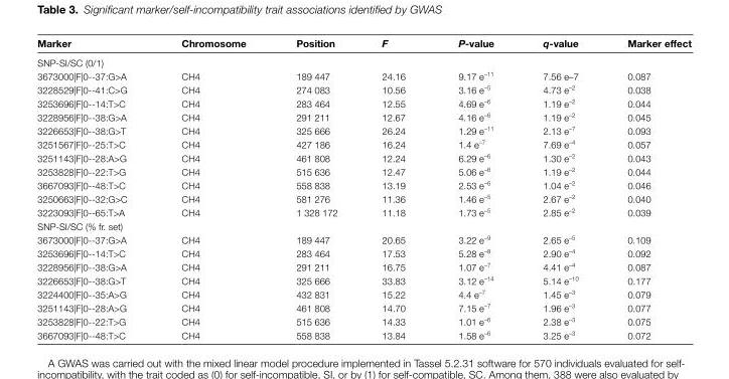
<table><thead><tr><td>Marker</td><td>Chromosome</td><td>Position</td><td>F</td><td>P-value</td><td>q-value</td><td>Marker effect</td></tr></thead><tbody><tr><td colspan="7">SNP-SI/SC (0/1)</td></tr><tr><td>3673000|F|0--37:G&gt;A</td><td>CH4</td><td>189 447</td><td>24.16</td><td>9.17 e<sup>–11</sup></td><td>7.56 e–7</td><td>0.087</td></tr><tr><td>3228529|F|0--41:C&gt;G</td><td>CH4</td><td>274 083</td><td>10.56</td><td>3.16 e<sup>–5</sup></td><td>4.73 e<sup>–2</sup></td><td>0.038</td></tr><tr><td>3253696|F|0--14:T&gt;C</td><td>CH4</td><td>283 464</td><td>12.55</td><td>4.69 e<sup>–6</sup></td><td>1.19 e<sup>–2</sup></td><td>0.044</td></tr><tr><td>3228956|F|0--38:G&gt;A</td><td>CH4</td><td>291 211</td><td>12.67</td><td>4.16 e<sup>–6</sup></td><td>1.19 e<sup>–2</sup></td><td>0.045</td></tr><tr><td>3226653|F|0--38:G&gt;T</td><td>CH4</td><td>325 666</td><td>26.24</td><td>1.29 e<sup>–11</sup></td><td>2.13 e<sup>–7</sup></td><td>0.093</td></tr><tr><td>3251567|F|0--25:T&gt;C</td><td>CH4</td><td>427 186</td><td>16.24</td><td>1.4 e<sup>–7</sup></td><td>7.69 e<sup>–4</sup></td><td>0.057</td></tr><tr><td>3251143|F|0--28:A&gt;G</td><td>CH4</td><td>461 808</td><td>12.24</td><td>6.29 e<sup>–6</sup></td><td>1.30 e<sup>–2</sup></td><td>0.043</td></tr><tr><td>3253828|F|0--22:T&gt;G</td><td>CH4</td><td>515 636</td><td>12.47</td><td>5.06 e<sup>–6</sup></td><td>1.19 e<sup>–2</sup></td><td>0.044</td></tr><tr><td>3667093|F|0--48:T&gt;C</td><td>CH4</td><td>558 838</td><td>13.19</td><td>2.53 e<sup>–6</sup></td><td>1.04 e<sup>–2</sup></td><td>0.046</td></tr><tr><td>3250663|F|0--32:G&gt;C</td><td>CH4</td><td>581 276</td><td>11.36</td><td>1.46 e<sup>–5</sup></td><td>2.67 e<sup>–2</sup></td><td>0.040</td></tr><tr><td>3223093|F|0--65:T&gt;A</td><td>CH4</td><td>1 328 172</td><td>11.18</td><td>1.73 e<sup>–5</sup></td><td>2.85 e<sup>–2</sup></td><td>0.039</td></tr><tr><td colspan="7">SNP-SI/SC (% fr. set)</td></tr><tr><td>3673000|F|0--37:G&gt;A</td><td>CH4</td><td>189 447</td><td>20.65</td><td>3.22 e<sup>–9</sup></td><td>2.65 e<sup>–5</sup></td><td>0.109</td></tr><tr><td>3253696|F|0--14:T&gt;C</td><td>CH4</td><td>283 464</td><td>17.53</td><td>5.28 e<sup>–8</sup></td><td>2.90 e<sup>–4</sup></td><td>0.092</td></tr><tr><td>3228956|F|0--38:G&gt;A</td><td>CH4</td><td>291 211</td><td>16.75</td><td>1.07 e<sup>–7</sup></td><td>4.41 e<sup>–4</sup></td><td>0.087</td></tr><tr><td>3226653|F|0--38:G&gt;T</td><td>CH4</td><td>325 666</td><td>33.83</td><td>3.12 e<sup>–14</sup></td><td>5.14 e<sup>–10</sup></td><td>0.177</td></tr><tr><td>3224400|F|0--35:A&gt;G</td><td>CH4</td><td>432 831</td><td>15.22</td><td>4.4 e<sup>–7</sup></td><td>1.45 e<sup>–3</sup></td><td>0.079</td></tr><tr><td>3251143|F|0--28:A&gt;G</td><td>CH4</td><td>461 808</td><td>14.70</td><td>7.15 e<sup>–7</sup></td><td>1.96 e<sup>–3</sup></td><td>0.077</td></tr><tr><td>3253828|F|0--22:T&gt;G</td><td>CH4</td><td>515 636</td><td>14.33</td><td>1.01 e<sup>–6</sup></td><td>2.38 e<sup>–3</sup></td><td>0.075</td></tr><tr><td>3667093|F|0--48:T&gt;C</td><td>CH4</td><td>558 838</td><td>13.84</td><td>1.58 e<sup>–6</sup></td><td>3.25 e<sup>–3</sup></td><td>0.072</td></tr></tbody></table>